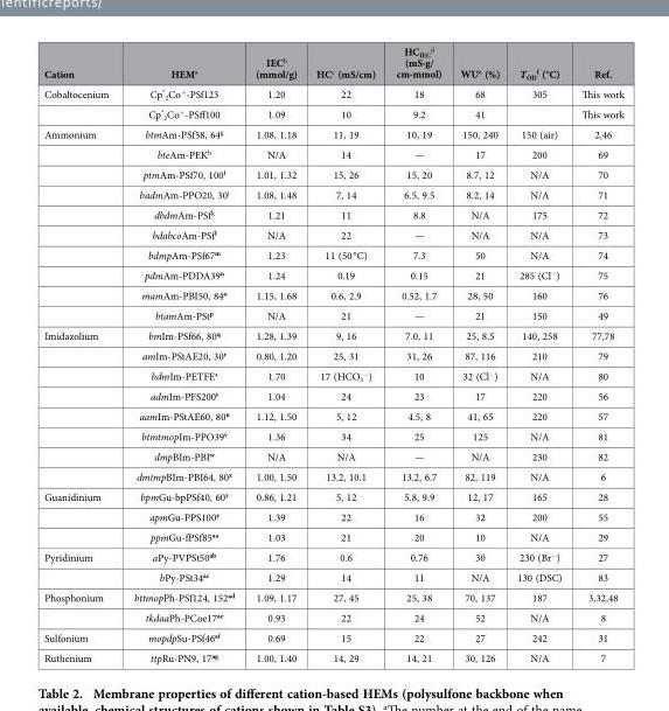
<table><thead><tr><td>Cation</td><td>HEM<sup>a</sup></td><td>IEC<sup>b</sup> (mmol/g)</td><td>HC<sup>c</sup> (mS/cm)</td><td>HC<sub>IEC</sub> <sup>d</sup> (mS∙g/ cm∙mmol)</td><td>WU<sup>e</sup> (%)</td><td>T<sub>OD</sub> <sup>f</sup> (°C)</td><td>Ref.</td></tr></thead><tbody><tr><td rowspan="2">Cobaltocenium</td><td>Cp* <sub>2</sub>Co<sup>+</sup>-PSf123</td><td>1.20</td><td>22</td><td>18</td><td>68</td><td>305</td><td>This work</td></tr><tr><td>Cp* <sub>2</sub>Co<sup>+</sup>-PSff100</td><td>1.09</td><td>10</td><td>9.2</td><td>41</td><td></td><td>This work</td></tr><tr><td rowspan="10">Ammonium</td><td>btmAm-PSf58, 64<sup>g</sup></td><td>1.08, 1.18</td><td>11, 19</td><td>10, 19</td><td>150, 240</td><td>150 (air)</td><td>2,46</td></tr><tr><td>bteAm-PEK<sup>h</sup></td><td>N/A</td><td>14</td><td>—</td><td>17</td><td>200</td><td>69</td></tr><tr><td>ptmAm-PSf70, 100<sup>i</sup></td><td>1.01, 1.32</td><td>15, 26</td><td>15, 20</td><td>8.7, 12</td><td>N/A</td><td>70</td></tr><tr><td>badmAm-PPO20, 30<sup>j</sup></td><td>1.08, 1.48</td><td>7, 14</td><td>6.5, 9.5</td><td>8.2, 14</td><td>N/A</td><td>71</td></tr><tr><td>dbdmAm-PSfk</td><td>1.21</td><td>11</td><td>8.8</td><td>N/A</td><td>175</td><td>72</td></tr><tr><td>bdabcoAm-PSf<sup>l</sup></td><td>N/A</td><td>22</td><td>—</td><td>N/A</td><td>N/A</td><td>73</td></tr><tr><td>bdmpAm-PSf67<sup>m</sup></td><td>1.23</td><td>11 (50 °C)</td><td>7.3</td><td>50</td><td>N/A</td><td>74</td></tr><tr><td>pdmAm-PDDA39<sup>n</sup></td><td>1.24</td><td>0.19</td><td>0.15</td><td>21</td><td>285 (Cl<sup>−</sup>)</td><td>75</td></tr><tr><td>mamAm-PBI50, 84<sup>o</sup></td><td>1.15, 1.68</td><td>0.6, 2.9</td><td>0.52, 1.7</td><td>28, 50</td><td>160</td><td>76</td></tr><tr><td>btamAm-PSt<sup>p</sup></td><td>N/A</td><td>21</td><td>—</td><td>21</td><td>150</td><td>49</td></tr><tr><td rowspan="8">Imidazolium</td><td>bmIm-PSf66, 80<sup>q</sup></td><td>1.28, 1.39</td><td>9, 16</td><td>7.0, 11</td><td>25, 8.5</td><td>140, 258</td><td>77,78</td></tr><tr><td>amIm-PStAE20, 30<sup>r</sup></td><td>0.80, 1.20</td><td>25, 31</td><td>31, 26</td><td>87, 116</td><td>210</td><td>79</td></tr><tr><td>bdmIm-PETFE<sup>s</sup></td><td>1.70</td><td>17 (HCO<sub>3</sub> <sup>−</sup>)</td><td>10</td><td>32 (Cl<sup>−</sup>)</td><td>N/A</td><td>80</td></tr><tr><td>admIm-PFS200<sup>t</sup></td><td>1.04</td><td>24</td><td>23</td><td>17</td><td>220</td><td>56</td></tr><tr><td>aamIm-PStAE60, 80<sup>u</sup></td><td>1.12, 1.50</td><td>5, 12</td><td>4.5, 8</td><td>41, 65</td><td>220</td><td>57</td></tr><tr><td>btmtmopIm-PPO39<sup>v</sup></td><td>1.36</td><td>34</td><td>25</td><td>125</td><td>N/A</td><td>81</td></tr><tr><td>dmpBIm-PBI<sup>w</sup></td><td>N/A</td><td>N/A</td><td>—</td><td>N/A</td><td>230</td><td>82</td></tr><tr><td>dmtmpBIm-PBI64, 80<sup>x</sup></td><td>1.00, 1.50</td><td>13.2, 10.1</td><td>13.2, 6.7</td><td>82, 119</td><td>N/A</td><td>6</td></tr><tr><td rowspan="3">Guanidinium</td><td>bpmGu-bpPSf40, 60<sup>y</sup></td><td>0.86, 1.21</td><td>5, 12</td><td>5.8, 9.9</td><td>12, 17</td><td>165</td><td>28</td></tr><tr><td>apmGu-PPS100<sup>z</sup></td><td>1.39</td><td>22</td><td>16</td><td>32</td><td>200</td><td>55</td></tr><tr><td>ppmGu-fPSf85<sup>aa</sup></td><td>1.03</td><td>21</td><td>20</td><td>10</td><td>N/A</td><td>29</td></tr><tr><td rowspan="2">Pyridinium</td><td>aPy-PVPSt50<sup>ab</sup></td><td>1.76</td><td>0.6</td><td>0.76</td><td>30</td><td>230 (Br<sup>−</sup>)</td><td>27</td></tr><tr><td>bPy-PSt34<sup>ac</sup></td><td>1.29</td><td>14</td><td>11</td><td>N/A</td><td>130 (DSC)</td><td>83</td></tr><tr><td rowspan="2">Phosphonium</td><td>bttmopPh-PSf124, 152<sup>ad</sup></td><td>1.09, 1.17</td><td>27, 45</td><td>25, 38</td><td>70, 137</td><td>187</td><td>3,32,48</td></tr><tr><td>tkdaaPh-PCoe17<sup>ae</sup></td><td>0.93</td><td>22</td><td>24</td><td>52</td><td>N/A</td><td>8</td></tr><tr><td>Sulfonium</td><td>mopdpSu-PSf46<sup>af</sup></td><td>0.69</td><td>15</td><td>22</td><td>27</td><td>242</td><td>31</td></tr><tr><td>Ruthenium</td><td>ttpRu-PN9, 17<sup>ag</sup></td><td>1.00, 1.40</td><td>14, 29</td><td>14, 21</td><td>30, 126</td><td>N/A</td><td>7</td></tr></tbody></table>